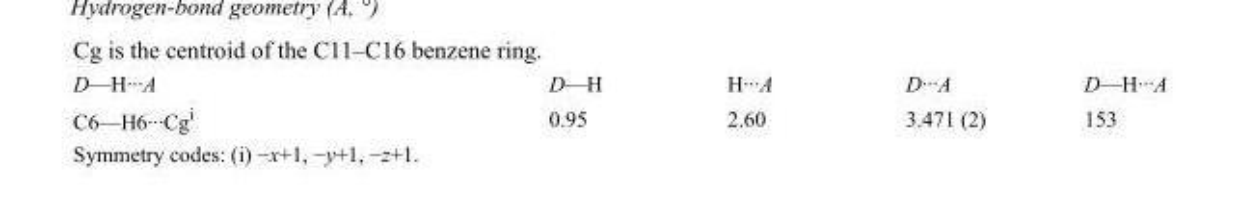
<table><tbody><tr><td>D—H···A</td><td>D—H</td><td>H···A</td><td>D···A</td><td>D—H···A</td></tr><tr><td>C6—H6···Cg<sup>i</sup></td><td>0.95</td><td>2.60</td><td>3.471 (2)</td><td>153</td></tr></tbody></table>